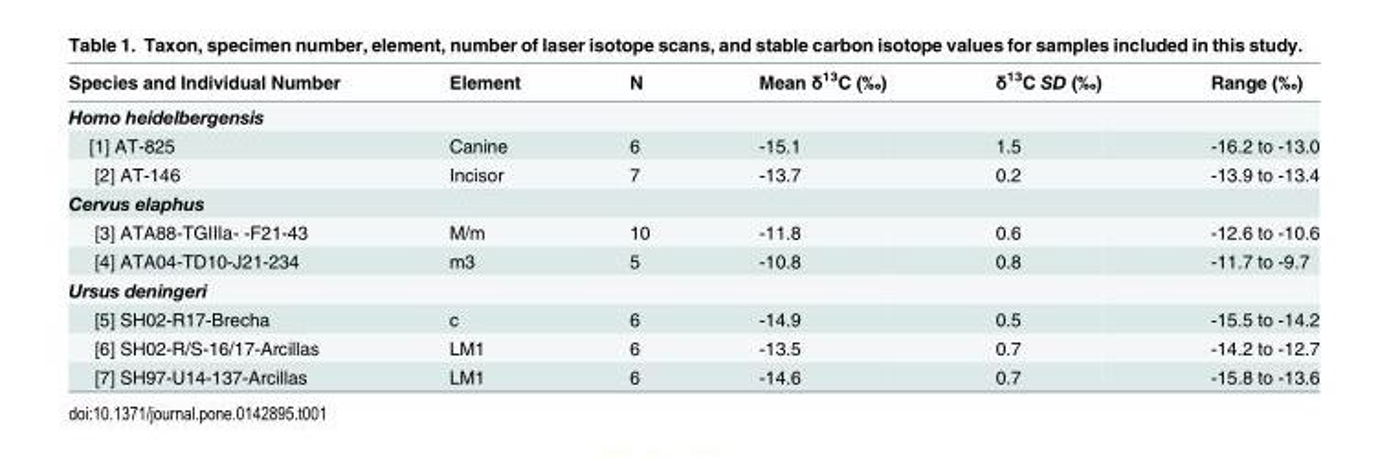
<table><thead><tr><td>Species and Individual Number</td><td>Element</td><td>N</td><td>Mean δ<sup>13</sup>C (‰)</td><td>δ<sup>13</sup>C SD (‰)</td><td>Range (‰)</td></tr></thead><tbody><tr><td colspan="6">Homo heidelbergensis</td></tr><tr><td>[1] AT-825</td><td>Canine</td><td>6</td><td>-15.1</td><td>1.5</td><td>-16.2 to -13.0</td></tr><tr><td>[2] AT-146</td><td>Incisor</td><td>7</td><td>-13.7</td><td>0.2</td><td>-13.9 to -13.4</td></tr><tr><td colspan="6">Cervus elaphus</td></tr><tr><td>[3] ATA88-TGIIIa- -F21-43</td><td>M/m</td><td>10</td><td>-11.8</td><td>0.6</td><td>-12.6 to -10.6</td></tr><tr><td>[4] ATA04-TD10-J21-234</td><td>m3</td><td>5</td><td>-10.8</td><td>0.8</td><td>-11.7 to -9.7</td></tr><tr><td colspan="6">Ursus deningeri</td></tr><tr><td>[5] SH02-R17-Brecha</td><td>c</td><td>6</td><td>-14.9</td><td>0.5</td><td>-15.5 to -14.2</td></tr><tr><td>[6] SH02-R/S-16/17-Arcillas</td><td>LM1</td><td>6</td><td>-13.5</td><td>0.7</td><td>-14.2 to -12.7</td></tr><tr><td>[7] SH97-U14-137-Arcillas</td><td>LM1</td><td>6</td><td>-14.6</td><td>0.7</td><td>-15.8 to -13.6</td></tr></tbody></table>